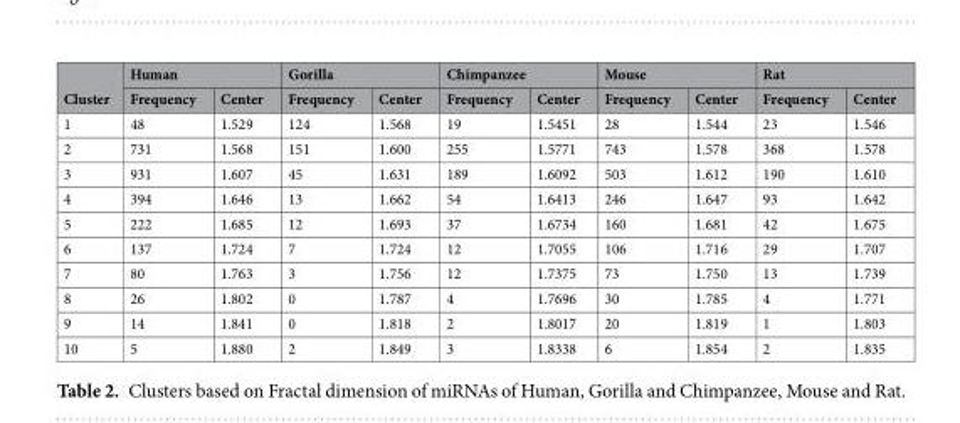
<table><thead><tr><td rowspan="2">Cluster</td><td colspan="2">Human</td><td colspan="2">Gorilla</td><td colspan="2">Chimpanzee</td><td colspan="2">Mouse</td><td colspan="2">Rat</td></tr><tr><td>Frequency</td><td>Center</td><td>Frequency</td><td>Center</td><td>Frequency</td><td>Center</td><td>Frequency</td><td>Center</td><td>Frequency</td><td>Center</td></tr></thead><tbody><tr><td>1</td><td>48</td><td>1.529</td><td>124</td><td>1.568</td><td>19</td><td>1.5451</td><td>28</td><td>1.544</td><td>23</td><td>1.546</td></tr><tr><td>2</td><td>731</td><td>1.568</td><td>151</td><td>1.600</td><td>255</td><td>1.5771</td><td>743</td><td>1.578</td><td>368</td><td>1.578</td></tr><tr><td>3</td><td>931</td><td>1.607</td><td>45</td><td>1.631</td><td>189</td><td>1.6092</td><td>503</td><td>1.612</td><td>190</td><td>1.610</td></tr><tr><td>4</td><td>394</td><td>1.646</td><td>13</td><td>1.662</td><td>54</td><td>1.6413</td><td>246</td><td>1.647</td><td>93</td><td>1.642</td></tr><tr><td>5</td><td>222</td><td>1.685</td><td>12</td><td>1.693</td><td>37</td><td>1.6734</td><td>160</td><td>1.681</td><td>42</td><td>1.675</td></tr><tr><td>6</td><td>137</td><td>1.724</td><td>7</td><td>1.724</td><td>12</td><td>1.7055</td><td>106</td><td>1.716</td><td>29</td><td>1.707</td></tr><tr><td>7</td><td>80</td><td>1.763</td><td>3</td><td>1.756</td><td>12</td><td>1.7375</td><td>73</td><td>1.750</td><td>13</td><td>1.739</td></tr><tr><td>8</td><td>26</td><td>1.802</td><td>0</td><td>1.787</td><td>4</td><td>1.7696</td><td>30</td><td>1.785</td><td>4</td><td>1.771</td></tr><tr><td>9</td><td>14</td><td>1.841</td><td>0</td><td>1.818</td><td>2</td><td>1.8017</td><td>20</td><td>1.819</td><td>1</td><td>1.803</td></tr><tr><td>10</td><td>5</td><td>1.880</td><td>2</td><td>1.849</td><td>3</td><td>1.8338</td><td>6</td><td>1.854</td><td>2</td><td>1.835</td></tr></tbody></table>